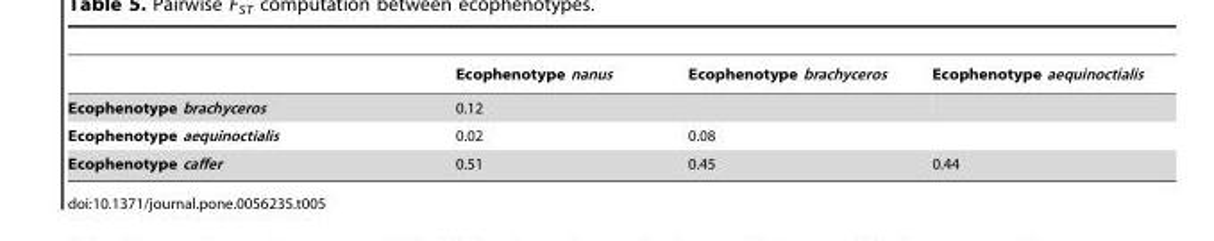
<table><thead><tr><td></td><td>Ecophenotype nanus</td><td>Ecophenotype brachyceros</td><td>Ecophenotype aequinoctialis</td></tr></thead><tbody><tr><td>Ecophenotype brachyceros</td><td>0.12</td><td></td><td></td></tr><tr><td>Ecophenotype aequinoctialis</td><td>0.02</td><td>0.08</td><td></td></tr><tr><td>Ecophenotype caffer</td><td>0.51</td><td>0.45</td><td>0.44</td></tr></tbody></table>